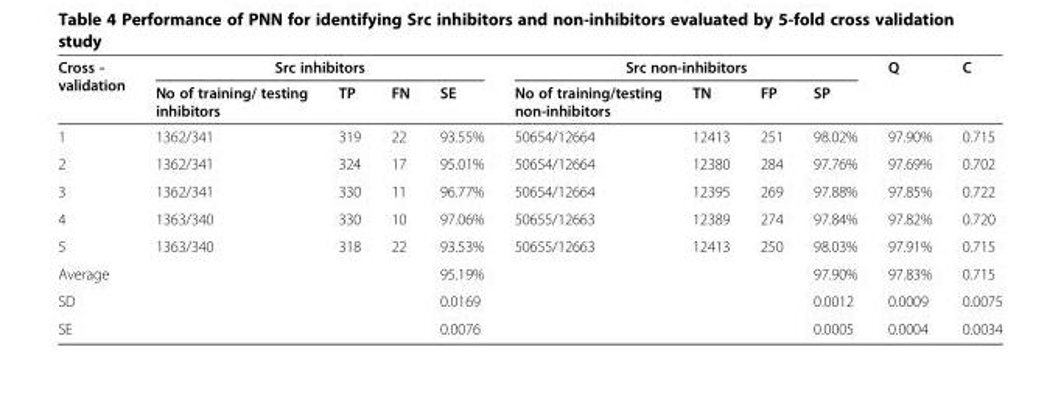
<table><thead><tr><td rowspan="2">Cross - validation</td><td colspan="4">Src inhibitors</td><td colspan="4">Src non-inhibitors</td><td rowspan="2">Q</td><td rowspan="2">C</td></tr><tr><td>No of training/ testing inhibitors</td><td>TP</td><td>FN</td><td>SE</td><td>No of training/testing non-inhibitors</td><td>TN</td><td>FP</td><td>SP</td></tr></thead><tbody><tr><td>1</td><td>1362/341</td><td>319</td><td>22</td><td>93.55%</td><td>50654/12664</td><td>12413</td><td>251</td><td>98.02%</td><td>97.90%</td><td>0.715</td></tr><tr><td>2</td><td>1362/341</td><td>324</td><td>17</td><td>95.01%</td><td>50654/12664</td><td>12380</td><td>284</td><td>97.76%</td><td>97.69%</td><td>0.702</td></tr><tr><td>3</td><td>1362/341</td><td>330</td><td>11</td><td>96.77%</td><td>50654/12664</td><td>12395</td><td>269</td><td>97.88%</td><td>97.85%</td><td>0.722</td></tr><tr><td>4</td><td>1363/340</td><td>330</td><td>10</td><td>97.06%</td><td>50655/12663</td><td>12389</td><td>274</td><td>97.84%</td><td>97.82%</td><td>0.720</td></tr><tr><td>5</td><td>1363/340</td><td>318</td><td>22</td><td>93.53%</td><td>50655/12663</td><td>12413</td><td>250</td><td>98.03%</td><td>97.91%</td><td>0.715</td></tr><tr><td>Average</td><td></td><td></td><td></td><td>95.19%</td><td></td><td></td><td></td><td>97.90%</td><td>97.83%</td><td>0.715</td></tr><tr><td>SD</td><td></td><td></td><td></td><td>0.0169</td><td></td><td></td><td></td><td>0.0012</td><td>0.0009</td><td>0.0075</td></tr><tr><td>SE</td><td></td><td></td><td></td><td>0.0076</td><td></td><td></td><td></td><td>0.0005</td><td>0.0004</td><td>0.0034</td></tr></tbody></table>